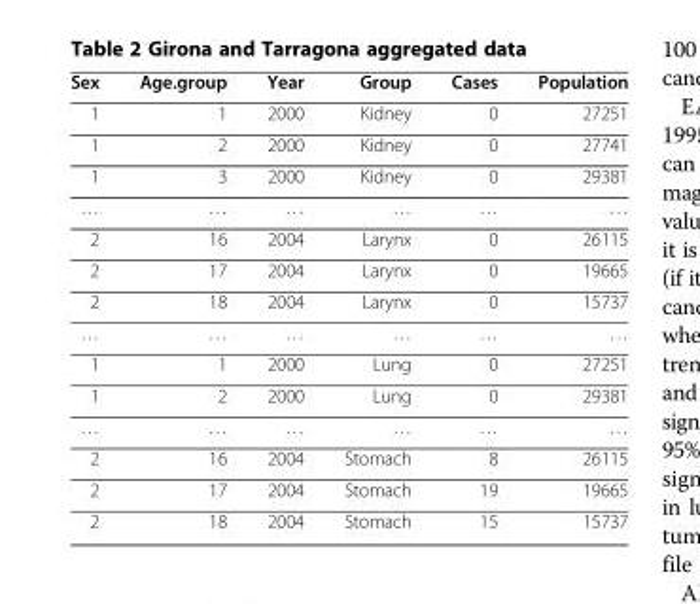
<table><thead><tr><td>Sex</td><td>Age.group</td><td>Year</td><td>Group</td><td>Cases</td><td>Population</td></tr></thead><tbody><tr><td>1</td><td>1</td><td>2000</td><td>Kidney</td><td>0</td><td>27251</td></tr><tr><td>1</td><td>2</td><td>2000</td><td>Kidney</td><td>0</td><td>27741</td></tr><tr><td>1</td><td>3</td><td>2000</td><td>Kidney</td><td>0</td><td>29381</td></tr><tr><td>…</td><td>…</td><td>…</td><td>…</td><td>…</td><td>…</td></tr><tr><td>2</td><td>16</td><td>2004</td><td>Larynx</td><td>0</td><td>26115</td></tr><tr><td>2</td><td>17</td><td>2004</td><td>Larynx</td><td>0</td><td>19665</td></tr><tr><td>2</td><td>18</td><td>2004</td><td>Larynx</td><td>0</td><td>15737</td></tr><tr><td>…</td><td>…</td><td>…</td><td>…</td><td>…</td><td>…</td></tr><tr><td>1</td><td>1</td><td>2000</td><td>Lung</td><td>0</td><td>27251</td></tr><tr><td>1</td><td>2</td><td>2000</td><td>Lung</td><td>0</td><td>29381</td></tr><tr><td>…</td><td>…</td><td>…</td><td>…</td><td>…</td><td>…</td></tr><tr><td>2</td><td>16</td><td>2004</td><td>Stomach</td><td>8</td><td>26115</td></tr><tr><td>2</td><td>17</td><td>2004</td><td>Stomach</td><td>19</td><td>19665</td></tr><tr><td>2</td><td>18</td><td>2004</td><td>Stomach</td><td>15</td><td>15737</td></tr></tbody></table>